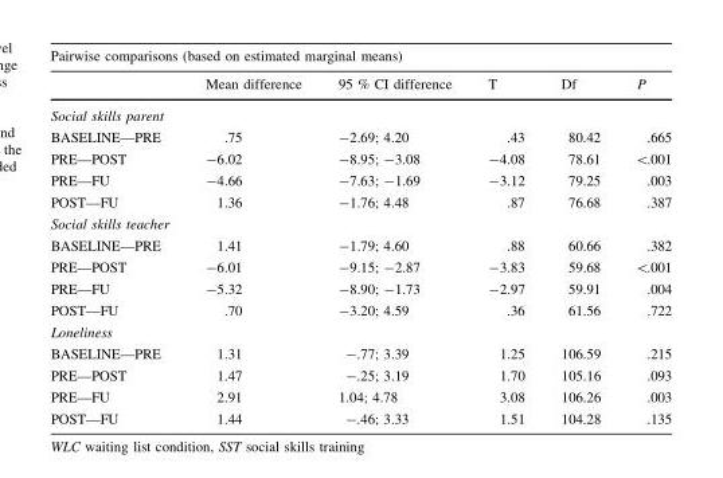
<table><thead><tr><td colspan="6">Pairwise comparisons (based on estimated marginal means)</td></tr><tr><td></td><td>Mean difference</td><td>95 % CI difference</td><td>T</td><td>Df</td><td>P</td></tr></thead><tbody><tr><td colspan="6">Social skills parent</td></tr><tr><td>BASELINE—PRE</td><td>.75</td><td>-2.69; 4.20</td><td>.43</td><td>80.42</td><td>.665</td></tr><tr><td>PRE—POST</td><td>-6.02</td><td>-8.95; -3.08</td><td>-4.08</td><td>78.61</td><td>&lt;.001</td></tr><tr><td>PRE—FU</td><td>-4.66</td><td>-7.63; -1.69</td><td>-3.12</td><td>79.25</td><td>.003</td></tr><tr><td>POST—FU</td><td>1.36</td><td>-1.76; 4.48</td><td>.87</td><td>76.68</td><td>.387</td></tr><tr><td colspan="6">Social skills teacher</td></tr><tr><td>BASELINE—PRE</td><td>1.41</td><td>-1.79; 4.60</td><td>.88</td><td>60.66</td><td>.382</td></tr><tr><td>PRE—POST</td><td>-6.01</td><td>-9.15; -2.87</td><td>-3.83</td><td>59.68</td><td>&lt;.001</td></tr><tr><td>PRE—FU</td><td>-5.32</td><td>-8.90; -1.73</td><td>-2.97</td><td>59.91</td><td>.004</td></tr><tr><td>POST—FU</td><td>.70</td><td>-3.20; 4.59</td><td>.36</td><td>61.56</td><td>.722</td></tr><tr><td colspan="6">Loneliness</td></tr><tr><td>BASELINE—PRE</td><td>1.31</td><td>-.77; 3.39</td><td>1.25</td><td>106.59</td><td>.215</td></tr><tr><td>PRE—POST</td><td>1.47</td><td>-.25; 3.19</td><td>1.70</td><td>105.16</td><td>.093</td></tr><tr><td>PRE—FU</td><td>2.91</td><td>1.04; 4.78</td><td>3.08</td><td>106.26</td><td>.003</td></tr><tr><td>POST—FU</td><td>1.44</td><td>-.46; 3.33</td><td>1.51</td><td>104.28</td><td>.135</td></tr></tbody></table>